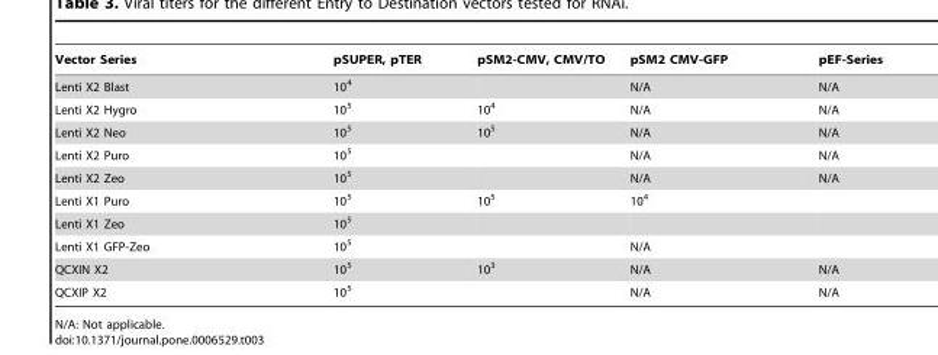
<table><thead><tr><td>Vector Series</td><td>pSUPER, pTER</td><td>pSM2-CMV, CMV/TO</td><td>pSM2 CMV-GFP</td><td>pEF-Series</td></tr></thead><tbody><tr><td>Lenti X2 Blast</td><td>10<sup>4</sup></td><td></td><td>N/A</td><td>N/A</td></tr><tr><td>Lenti X2 Hygro</td><td>10<sup>5</sup></td><td>10<sup>4</sup></td><td>N/A</td><td>N/A</td></tr><tr><td>Lenti X2 Neo</td><td>10<sup>5</sup></td><td>10<sup>5</sup></td><td>N/A</td><td>N/A</td></tr><tr><td>Lenti X2 Puro</td><td>10<sup>5</sup></td><td></td><td>N/A</td><td>N/A</td></tr><tr><td>Lenti X2 Zeo</td><td>10<sup>5</sup></td><td></td><td>N/A</td><td>N/A</td></tr><tr><td>Lenti X1 Puro</td><td>10<sup>5</sup></td><td>10<sup>5</sup></td><td>10<sup>4</sup></td><td></td></tr><tr><td>Lenti X1 Zeo</td><td>10<sup>5</sup></td><td></td><td></td><td></td></tr><tr><td>Lenti X1 GFP-Zeo</td><td>10<sup>5</sup></td><td></td><td>N/A</td><td></td></tr><tr><td>QCXIN X2</td><td>10<sup>5</sup></td><td>10<sup>3</sup></td><td>N/A</td><td>N/A</td></tr><tr><td>QCXIP X2</td><td>10<sup>5</sup></td><td></td><td>N/A</td><td>N/A</td></tr></tbody></table>